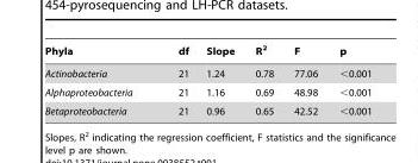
<table><thead><tr><td>Phyla</td><td>df</td><td>Slope</td><td>R<sup>2</sup></td><td>F</td><td>p</td></tr></thead><tbody><tr><td>Actinobacteria</td><td>21</td><td>1.24</td><td>0.78</td><td>77.06</td><td>&lt;0.001</td></tr><tr><td>Alphaproteobacteria</td><td>21</td><td>1.16</td><td>0.69</td><td>48.98</td><td>&lt;0.001</td></tr><tr><td>Betaproteobacteria</td><td>21</td><td>0.96</td><td>0.65</td><td>42.52</td><td>&lt;0.001</td></tr></tbody></table>